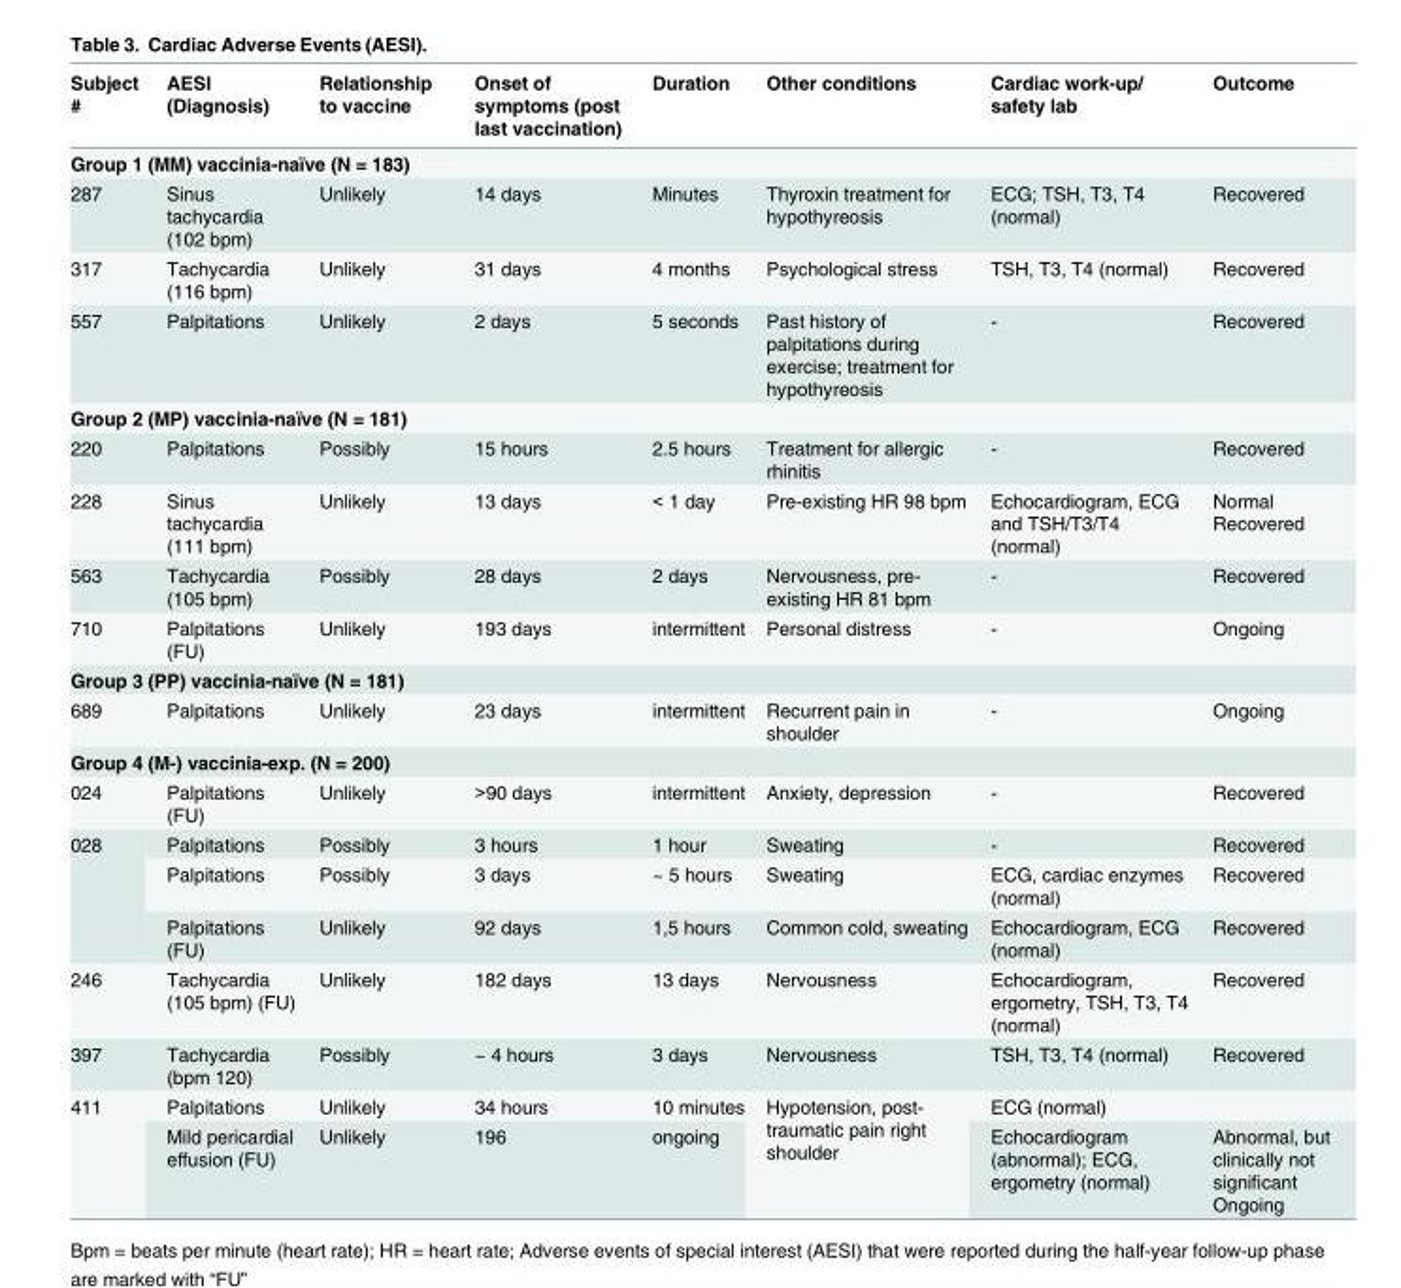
<table><thead><tr><td>Subject #</td><td>AESI (Diagnosis)</td><td>Relationship to vaccine</td><td>Onset of symptoms (post last vaccination)</td><td>Duration</td><td>Other conditions</td><td>Cardiac work-up/ safety lab</td><td>Outcome</td></tr></thead><tbody><tr><td colspan="8">Group 1 (MM) vaccinia-naïve (N = 183)</td></tr><tr><td>287</td><td>Sinus tachycardia (102 bpm)</td><td>Unlikely</td><td>14 days</td><td>Minutes</td><td>Thyroxin treatment for hypothyreosis</td><td>ECG; TSH, T3, T4 (normal)</td><td>Recovered</td></tr><tr><td>317</td><td>Tachycardia (116 bpm)</td><td>Unlikely</td><td>31 days</td><td>4 months</td><td>Psychological stress</td><td>TSH, T3, T4 (normal)</td><td>Recovered</td></tr><tr><td>557</td><td>Palpitations</td><td>Unlikely</td><td>2 days</td><td>5 seconds</td><td>Past history of palpitations during exercise; treatment for hypothyreosis</td><td>-</td><td>Recovered</td></tr><tr><td colspan="8">Group 2 (MP) vaccinia-naïve (N = 181)</td></tr><tr><td>220</td><td>Palpitations</td><td>Possibly</td><td>15 hours</td><td>2.5 hours</td><td>Treatment for allergic rhinitis</td><td>-</td><td>Recovered</td></tr><tr><td>228</td><td>Sinus tachycardia (111 bpm)</td><td>Unlikely</td><td>13 days</td><td>&lt; 1 day</td><td>Pre-existing HR 98 bpm</td><td>Echocardiogram, ECG and TSH/T3/T4 (normal)</td><td>Normal Recovered</td></tr><tr><td>563</td><td>Tachycardia (105 bpm)</td><td>Possibly</td><td>28 days</td><td>2 days</td><td>Nervousness, pre- existing HR 81 bpm</td><td>-</td><td>Recovered</td></tr><tr><td>710</td><td>Palpitations (FU)</td><td>Unlikely</td><td>193 days</td><td>intermittent</td><td>Personal distress</td><td>-</td><td>Ongoing</td></tr><tr><td colspan="8">Group 3 (PP) vaccinia-naïve (N = 181)</td></tr><tr><td>689</td><td>Palpitations</td><td>Unlikely</td><td>23 days</td><td>intermittent</td><td>Recurrent pain in shoulder</td><td>-</td><td>Ongoing</td></tr><tr><td colspan="8">Group 4 (M-) vaccinia-exp. (N = 200)</td></tr><tr><td>024</td><td>Palpitations (FU)</td><td>Unlikely</td><td>&gt;90 days</td><td>intermittent</td><td>Anxiety, depression</td><td>-</td><td>Recovered</td></tr><tr><td rowspan="3">028</td><td>Palpitations</td><td>Possibly</td><td>3 hours</td><td>1 hour</td><td>Sweating</td><td>-</td><td>Recovered</td></tr><tr><td>Palpitations</td><td>Possibly</td><td>3 days</td><td>~ 5 hours</td><td>Sweating</td><td>ECG, cardiac enzymes (normal)</td><td>Recovered</td></tr><tr><td>Palpitations (FU)</td><td>Unlikely</td><td>92 days</td><td>1,5 hours</td><td>Common cold, sweating</td><td>Echocardiogram, ECG (normal)</td><td>Recovered</td></tr><tr><td>246</td><td>Tachycardia (105 bpm) (FU)</td><td>Unlikely</td><td>182 days</td><td>13 days</td><td>Nervousness</td><td>Echocardiogram, ergometry, TSH, T3, T4 (normal)</td><td>Recovered</td></tr><tr><td>397</td><td>Tachycardia (bpm 120)</td><td>Possibly</td><td>~ 4 hours</td><td>3 days</td><td>Nervousness</td><td>TSH, T3, T4 (normal)</td><td>Recovered</td></tr><tr><td rowspan="2">411</td><td>Palpitations</td><td>Unlikely</td><td>34 hours</td><td>10 minutes</td><td rowspan="2">Hypotension, post- traumatic pain right shoulder</td><td>ECG (normal)</td><td></td></tr><tr><td>Mild pericardial effusion (FU)</td><td>Unlikely</td><td>196</td><td>ongoing</td><td>Echocardiogram (abnormal); ECG, ergometry (normal)</td><td>Abnormal, but clinically not significant Ongoing</td></tr></tbody></table>